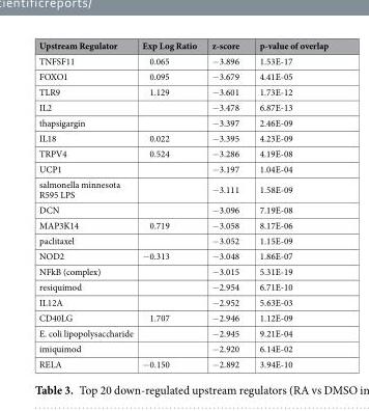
<table><thead><tr><td>Upstream Regulator</td><td>Exp Log Ratio</td><td>z-score</td><td>p-value of overlap</td></tr></thead><tbody><tr><td>TNFSF11</td><td>0.065</td><td>−3.896</td><td>1.53E-17</td></tr><tr><td>FOXO1</td><td>0.095</td><td>−3.679</td><td>4.41E-05</td></tr><tr><td>TLR9</td><td>1.129</td><td>−3.601</td><td>1.73E-12</td></tr><tr><td>IL2</td><td></td><td>−3.478</td><td>6.87E-13</td></tr><tr><td>thapsigargin</td><td></td><td>−3.397</td><td>2.46E-09</td></tr><tr><td>IL18</td><td>0.022</td><td>−3.395</td><td>4.23E-09</td></tr><tr><td>TRPV4</td><td>0.524</td><td>−3.286</td><td>4.19E-08</td></tr><tr><td>UCP1</td><td></td><td>−3.197</td><td>1.04E-04</td></tr><tr><td>salmonella minnesota R595 LPS</td><td></td><td>−3.111</td><td>1.58E-09</td></tr><tr><td>DCN</td><td></td><td>−3.096</td><td>7.19E-08</td></tr><tr><td>MAP3K14</td><td>0.719</td><td>−3.058</td><td>8.17E-06</td></tr><tr><td>paclitaxel</td><td></td><td>−3.052</td><td>1.15E-09</td></tr><tr><td>NOD2</td><td>−0.313</td><td>−3.048</td><td>1.86E-07</td></tr><tr><td>NFkB (complex)</td><td></td><td>−3.015</td><td>5.31E-19</td></tr><tr><td>resiquimod</td><td></td><td>−2.954</td><td>6.71E-10</td></tr><tr><td>IL12A</td><td></td><td>−2.952</td><td>5.63E-03</td></tr><tr><td>CD40LG</td><td>1.707</td><td>−2.946</td><td>1.12E-09</td></tr><tr><td>E. coli lipopolysaccharide</td><td></td><td>−2.945</td><td>9.21E-04</td></tr><tr><td>imiquimod</td><td></td><td>−2.920</td><td>6.14E-02</td></tr><tr><td>RELA</td><td>−0.150</td><td>−2.892</td><td>3.94E-10</td></tr></tbody></table>